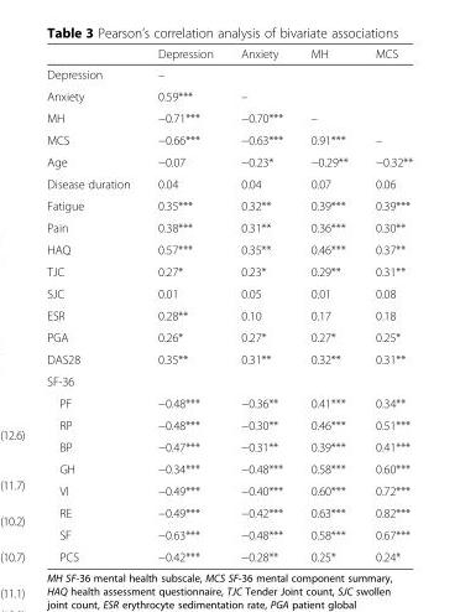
<table><thead><tr><td></td><td>Depression</td><td>Anxiety</td><td>MH</td><td>MCS</td></tr></thead><tbody><tr><td>Depression</td><td>–</td><td></td><td></td><td></td></tr><tr><td>Anxiety</td><td>0.59***</td><td>–</td><td></td><td></td></tr><tr><td>MH</td><td>−0.71***</td><td>−0.70***</td><td>–</td><td></td></tr><tr><td>MCS</td><td>−0.66***</td><td>−0.63***</td><td>0.91***</td><td>–</td></tr><tr><td>Age</td><td>−0.07</td><td>−0.23*</td><td>−0.29**</td><td>−0.32**</td></tr><tr><td>Disease duration</td><td>0.04</td><td>0.04</td><td>0.07</td><td>0.06</td></tr><tr><td>Fatigue</td><td>0.35***</td><td>0.32**</td><td>0.39***</td><td>0.39***</td></tr><tr><td>Pain</td><td>0.38***</td><td>0.31**</td><td>0.36***</td><td>0.30**</td></tr><tr><td>HAQ</td><td>0.57***</td><td>0.35**</td><td>0.46***</td><td>0.37**</td></tr><tr><td>TJC</td><td>0.27*</td><td>0.23*</td><td>0.29**</td><td>0.31**</td></tr><tr><td>SJC</td><td>0.01</td><td>0.05</td><td>0.01</td><td>0.08</td></tr><tr><td>ESR</td><td>0.28**</td><td>0.10</td><td>0.17</td><td>0.18</td></tr><tr><td>PGA</td><td>0.26*</td><td>0.27*</td><td>0.27*</td><td>0.25*</td></tr><tr><td>DAS28</td><td>0.35**</td><td>0.31**</td><td>0.32**</td><td>0.31**</td></tr><tr><td colspan="5">SF-36</td></tr><tr><td>PF</td><td>−0.48***</td><td>−0.36**</td><td>0.41***</td><td>0.34**</td></tr><tr><td>RP</td><td>−0.48***</td><td>−0.30**</td><td>0.46***</td><td>0.51***</td></tr><tr><td>BP</td><td>−0.47***</td><td>−0.31**</td><td>0.39***</td><td>0.41***</td></tr><tr><td>GH</td><td>−0.34***</td><td>−0.48***</td><td>0.58***</td><td>0.60***</td></tr><tr><td>VI</td><td>−0.49***</td><td>−0.40***</td><td>0.60***</td><td>0.72***</td></tr><tr><td>RE</td><td>−0.49***</td><td>−0.42***</td><td>0.63***</td><td>0.82***</td></tr><tr><td>SF</td><td>−0.63***</td><td>−0.48***</td><td>0.58***</td><td>0.67***</td></tr><tr><td>PCS</td><td>−0.42***</td><td>−0.28**</td><td>0.25*</td><td>0.24*</td></tr></tbody></table>